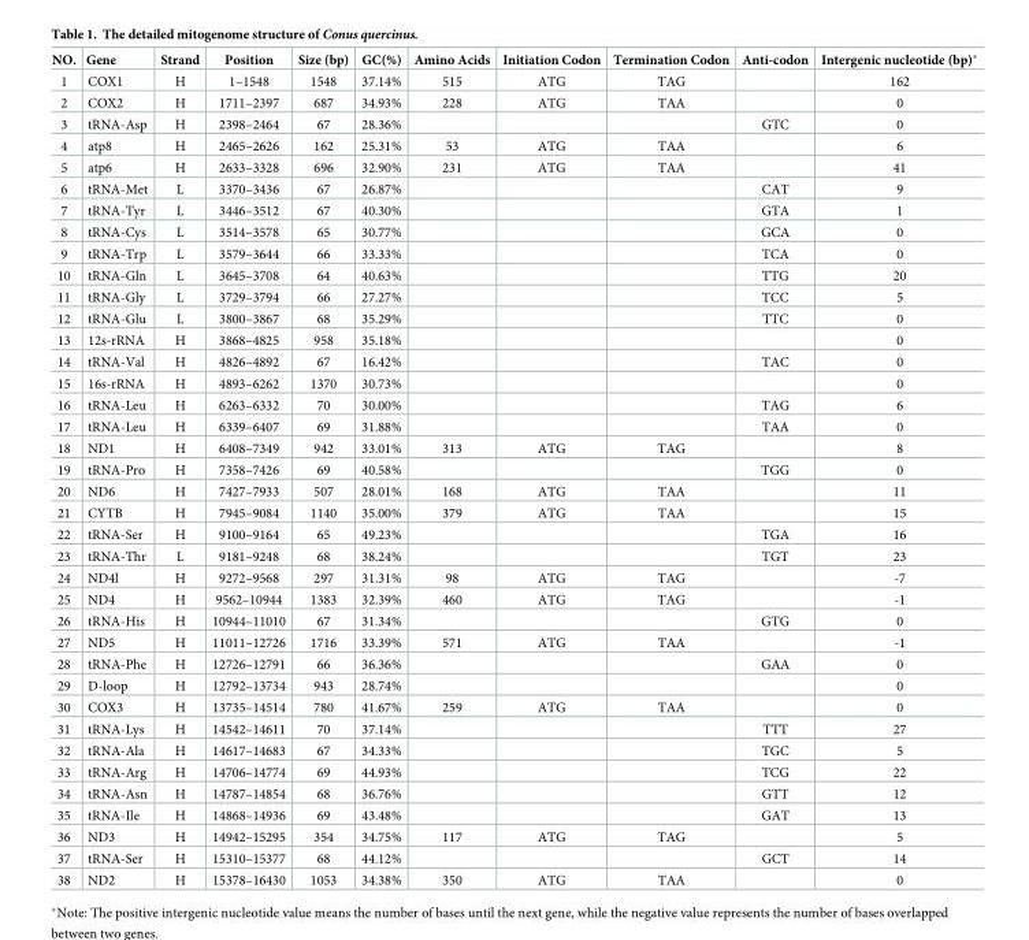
<table><thead><tr><td>NO.</td><td>Gene</td><td>Strand</td><td>Position</td><td>Size (bp)</td><td>GC(%)</td><td>Amino Acids</td><td>Initiation Codon</td><td>Termination Codon</td><td>Anti-codon</td><td>Intergenic nucleotide (bp)*</td></tr></thead><tbody><tr><td>1</td><td>COX1</td><td>H</td><td>1–1548</td><td>1548</td><td>37.14%</td><td>515</td><td>ATG</td><td>TAG</td><td></td><td>162</td></tr><tr><td>2</td><td>COX2</td><td>H</td><td>1711–2397</td><td>687</td><td>34.93%</td><td>228</td><td>ATG</td><td>TAA</td><td></td><td>0</td></tr><tr><td>3</td><td>tRNA-Asp</td><td>H</td><td>2398–2464</td><td>67</td><td>28.36%</td><td></td><td></td><td></td><td>GTC</td><td>0</td></tr><tr><td>4</td><td>atp8</td><td>H</td><td>2465–2626</td><td>162</td><td>25.31%</td><td>53</td><td>ATG</td><td>TAA</td><td></td><td>6</td></tr><tr><td>5</td><td>atp6</td><td>H</td><td>2633–3328</td><td>696</td><td>32.90%</td><td>231</td><td>ATG</td><td>TAA</td><td></td><td>41</td></tr><tr><td>6</td><td>tRNA-Met</td><td>L</td><td>3370–3436</td><td>67</td><td>26.87%</td><td></td><td></td><td></td><td>CAT</td><td>9</td></tr><tr><td>7</td><td>tRNA-Tyr</td><td>L</td><td>3446–3512</td><td>67</td><td>40.30%</td><td></td><td></td><td></td><td>GTA</td><td>1</td></tr><tr><td>8</td><td>tRNA-Cys</td><td>L</td><td>3514–3578</td><td>65</td><td>30.77%</td><td></td><td></td><td></td><td>GCA</td><td>0</td></tr><tr><td>9</td><td>tRNA-Trp</td><td>L</td><td>3579–3644</td><td>66</td><td>33.33%</td><td></td><td></td><td></td><td>TCA</td><td>0</td></tr><tr><td>10</td><td>tRNA-Gln</td><td>L</td><td>3645–3708</td><td>64</td><td>40.63%</td><td></td><td></td><td></td><td>TTG</td><td>20</td></tr><tr><td>11</td><td>tRNA-Gly</td><td>L</td><td>3729–3794</td><td>66</td><td>27.27%</td><td></td><td></td><td></td><td>TCC</td><td>5</td></tr><tr><td>12</td><td>tRNA-Glu</td><td>L</td><td>3800–3867</td><td>68</td><td>35.29%</td><td></td><td></td><td></td><td>TTC</td><td>0</td></tr><tr><td>13</td><td>12s-rRNA</td><td>H</td><td>3868–4825</td><td>958</td><td>35.18%</td><td></td><td></td><td></td><td></td><td>0</td></tr><tr><td>14</td><td>tRNA-Val</td><td>H</td><td>4826–4892</td><td>67</td><td>16.42%</td><td></td><td></td><td></td><td>TAC</td><td>0</td></tr><tr><td>15</td><td>16s-rRNA</td><td>H</td><td>4893–6262</td><td>1370</td><td>30.73%</td><td></td><td></td><td></td><td></td><td>0</td></tr><tr><td>16</td><td>tRNA-Leu</td><td>H</td><td>6263–6332</td><td>70</td><td>30.00%</td><td></td><td></td><td></td><td>TAG</td><td>6</td></tr><tr><td>17</td><td>tRNA-Leu</td><td>H</td><td>6339–6407</td><td>69</td><td>31.88%</td><td></td><td></td><td></td><td>TAA</td><td>0</td></tr><tr><td>18</td><td>ND1</td><td>H</td><td>6408–7349</td><td>942</td><td>33.01%</td><td>313</td><td>ATG</td><td>TAG</td><td></td><td>8</td></tr><tr><td>19</td><td>tRNA-Pro</td><td>H</td><td>7358–7426</td><td>69</td><td>40.58%</td><td></td><td></td><td></td><td>TGG</td><td>0</td></tr><tr><td>20</td><td>ND6</td><td>H</td><td>7427–7933</td><td>507</td><td>28.01%</td><td>168</td><td>ATG</td><td>TAA</td><td></td><td>11</td></tr><tr><td>21</td><td>CYTB</td><td>H</td><td>7945–9084</td><td>1140</td><td>35.00%</td><td>379</td><td>ATG</td><td>TAA</td><td></td><td>15</td></tr><tr><td>22</td><td>tRNA-Ser</td><td>H</td><td>9100–9164</td><td>65</td><td>49.23%</td><td></td><td></td><td></td><td>TGA</td><td>16</td></tr><tr><td>23</td><td>tRNA-Thr</td><td>L</td><td>9181–9248</td><td>68</td><td>38.24%</td><td></td><td></td><td></td><td>TGT</td><td>23</td></tr><tr><td>24</td><td>ND4l</td><td>H</td><td>9272–9568</td><td>297</td><td>31.31%</td><td>98</td><td>ATG</td><td>TAG</td><td></td><td>-7</td></tr><tr><td>25</td><td>ND4</td><td>H</td><td>9562–10944</td><td>1383</td><td>32.39%</td><td>460</td><td>ATG</td><td>TAG</td><td></td><td>-1</td></tr><tr><td>26</td><td>tRNA-His</td><td>H</td><td>10944–11010</td><td>67</td><td>31.34%</td><td></td><td></td><td></td><td>GTG</td><td>0</td></tr><tr><td>27</td><td>ND5</td><td>H</td><td>11011–12726</td><td>1716</td><td>33.39%</td><td>571</td><td>ATG</td><td>TAA</td><td></td><td>-1</td></tr><tr><td>28</td><td>tRNA-Phe</td><td>H</td><td>12726–12791</td><td>66</td><td>36.36%</td><td></td><td></td><td></td><td>GAA</td><td>0</td></tr><tr><td>29</td><td>D-loop</td><td>H</td><td>12792–13734</td><td>943</td><td>28.74%</td><td></td><td></td><td></td><td></td><td>0</td></tr><tr><td>30</td><td>COX3</td><td>H</td><td>13735–14514</td><td>780</td><td>41.67%</td><td>259</td><td>ATG</td><td>TAA</td><td></td><td>0</td></tr><tr><td>31</td><td>tRNA-Lys</td><td>H</td><td>14542–14611</td><td>70</td><td>37.14%</td><td></td><td></td><td></td><td>TTT</td><td>27</td></tr><tr><td>32</td><td>tRNA-Ala</td><td>H</td><td>14617–14683</td><td>67</td><td>34.33%</td><td></td><td></td><td></td><td>TGC</td><td>5</td></tr><tr><td>33</td><td>tRNA-Arg</td><td>H</td><td>14706–14774</td><td>69</td><td>44.93%</td><td></td><td></td><td></td><td>TCG</td><td>22</td></tr><tr><td>34</td><td>tRNA-Asn</td><td>H</td><td>14787–14854</td><td>68</td><td>36.76%</td><td></td><td></td><td></td><td>GTT</td><td>12</td></tr><tr><td>35</td><td>tRNA-Ile</td><td>H</td><td>14868–14936</td><td>69</td><td>43.48%</td><td></td><td></td><td></td><td>GAT</td><td>13</td></tr><tr><td>36</td><td>ND3</td><td>H</td><td>14942–15295</td><td>354</td><td>34.75%</td><td>117</td><td>ATG</td><td>TAG</td><td></td><td>5</td></tr><tr><td>37</td><td>tRNA-Ser</td><td>H</td><td>15310–15377</td><td>68</td><td>44.12%</td><td></td><td></td><td></td><td>GCT</td><td>14</td></tr><tr><td>38</td><td>ND2</td><td>H</td><td>15378–16430</td><td>1053</td><td>34.38%</td><td>350</td><td>ATG</td><td>TAA</td><td></td><td>0</td></tr></tbody></table>